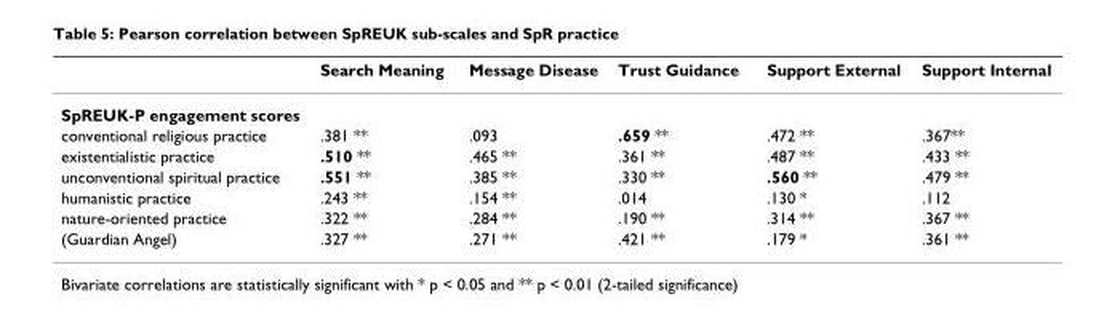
<table><thead><tr><td></td><td>Search Meaning</td><td>Message Disease</td><td>Trust Guidance</td><td>Support External</td><td>Support Internal</td></tr></thead><tbody><tr><td colspan="6">SpREUK-P engagement scores</td></tr><tr><td>conventional religious practice</td><td>.381 **</td><td>.093</td><td>.659 **</td><td>.472 **</td><td>.367**</td></tr><tr><td>existentialistic practice</td><td>.510 **</td><td>.465 **</td><td>.361 **</td><td>.487 **</td><td>.433 **</td></tr><tr><td>unconventional spiritual practice</td><td>.551 **</td><td>.385 **</td><td>.330 **</td><td>.560 **</td><td>.479 **</td></tr><tr><td>humanistic practice</td><td>.243 **</td><td>.154 **</td><td>.014</td><td>.130 *</td><td>.112</td></tr><tr><td>nature-oriented practice</td><td>.322 **</td><td>.284 **</td><td>.190 **</td><td>.314 **</td><td>.367 **</td></tr><tr><td>(Guardian Angel)</td><td>.327 **</td><td>.271 **</td><td>.421 **</td><td>.179 *</td><td>.361 **</td></tr></tbody></table>